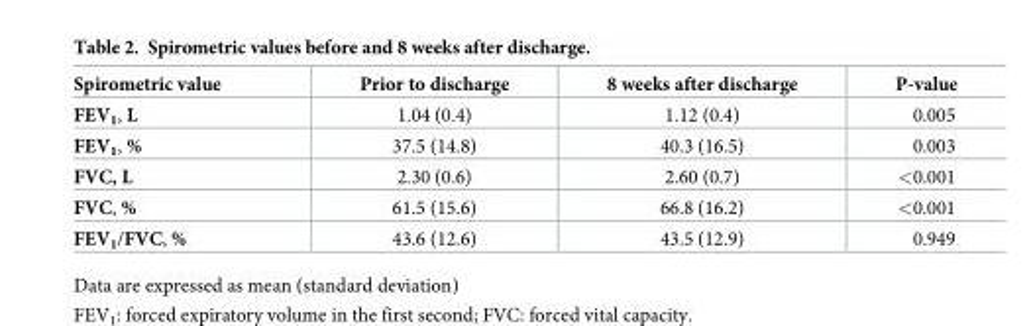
<table><thead><tr><td>Spirometric value</td><td>Prior to discharge</td><td>8 weeks after discharge</td><td>P-value</td></tr></thead><tbody><tr><td>FEV<sub>1</sub>, L</td><td>1.04 (0.4)</td><td>1.12 (0.4)</td><td>0.005</td></tr><tr><td>FEV<sub>1</sub>, %</td><td>37.5 (14.8)</td><td>40.3 (16.5)</td><td>0.003</td></tr><tr><td>FVC, L</td><td>2.30 (0.6)</td><td>2.60 (0.7)</td><td>&lt;0.001</td></tr><tr><td>FVC, %</td><td>61.5 (15.6)</td><td>66.8 (16.2)</td><td>&lt;0.001</td></tr><tr><td>FEV<sub>1</sub>/FVC, %</td><td>43.6 (12.6)</td><td>43.5 (12.9)</td><td>0.949</td></tr></tbody></table>